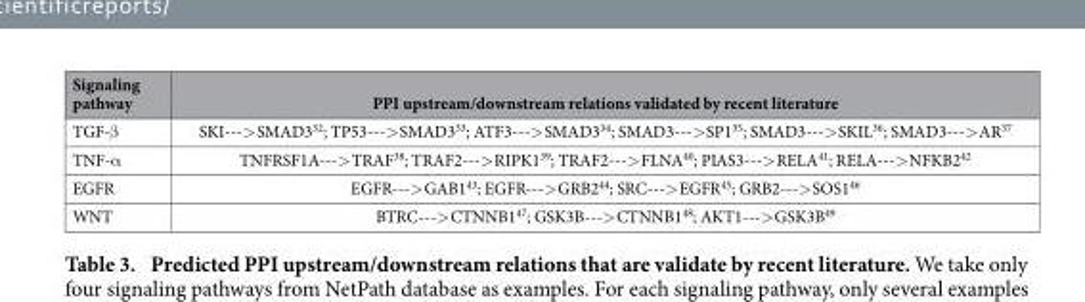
<table><thead><tr><td>Signaling pathway</td><td>PPI upstream/downstream relations validated by recent literature</td></tr></thead><tbody><tr><td>TGF-β</td><td>SKI---&gt; SMAD3<sup>32</sup>; TP53---&gt; SMAD3<sup>33</sup>; ATF3---&gt; SMAD3<sup>34</sup>; SMAD3---&gt; SP1<sup>35</sup>; SMAD3---&gt; SKIL<sup>36</sup>; SMAD3---&gt; AR<sup>37</sup></td></tr><tr><td>TNF-α</td><td>TNFRSF1A---&gt; TRAF<sup>38</sup>; TRAF2---&gt; RIPK1<sup>39</sup>; TRAF2---&gt; FLNA<sup>40</sup>; PIAS3---&gt; RELA<sup>41</sup>; RELA---&gt; NFKB2<sup>42</sup></td></tr><tr><td>EGFR</td><td>EGFR---&gt; GAB1<sup>43</sup>; EGFR---&gt; GRB2<sup>44</sup>; SRC---&gt; EGFR<sup>45</sup>; GRB2---&gt; SOS1<sup>46</sup></td></tr><tr><td>WNT</td><td>BTRC---&gt; CTNNB1<sup>47</sup>; GSK3B---&gt; CTNNB1<sup>48</sup>; AKT1---&gt; GSK3B<sup>49</sup></td></tr></tbody></table>